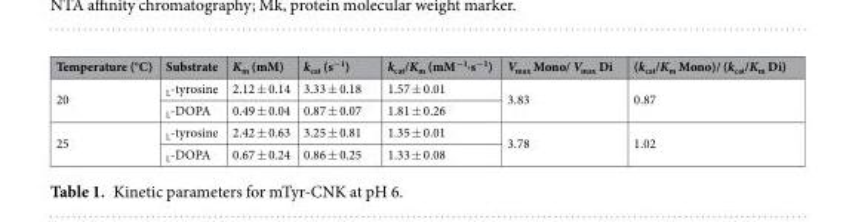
<table><thead><tr><td>Temperature (°C)</td><td>Substrate</td><td>K<sub>m</sub> (mM)</td><td>k<sub>cat</sub> (s<sup>−1</sup>)</td><td>k<sub>cat</sub>/K<sub>m</sub> (mM<sup>−1</sup>∙s<sup>−1</sup>)</td><td>V<sub>max</sub> Mono/ V<sub>max</sub> Di</td><td>(k<sub>cat</sub>/K<sub>m</sub> Mono)/ (k<sub>cat</sub>/K<sub>m</sub> Di)</td></tr></thead><tbody><tr><td rowspan="2">20</td><td><sub>L</sub>-tyrosine</td><td>2.12 ± 0.14</td><td>3.33 ± 0.18</td><td>1.57 ± 0.01</td><td rowspan="2">3.83</td><td rowspan="2">0.87</td></tr><tr><td><sub>L</sub>-DOPA</td><td>0.49 ± 0.04</td><td>0.87 ± 0.07</td><td>1.81 ± 0.26</td></tr><tr><td rowspan="2">25</td><td><sub>L</sub>-tyrosine</td><td>2.42 ± 0.63</td><td>3.25 ± 0.81</td><td>1.35 ± 0.01</td><td rowspan="2">3.78</td><td rowspan="2">1.02</td></tr><tr><td><sub>L</sub>-DOPA</td><td>0.67 ± 0.24</td><td>0.86 ± 0.25</td><td>1.33 ± 0.08</td></tr></tbody></table>